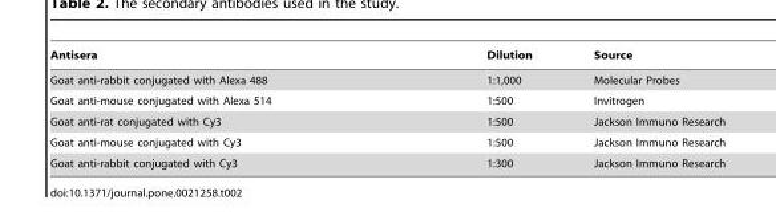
<table><thead><tr><td>Antisera</td><td>Dilution</td><td>Source</td></tr></thead><tbody><tr><td>Goat anti-rabbit conjugated with Alexa 488</td><td>1:1,000</td><td>Molecular Probes</td></tr><tr><td>Goat anti-mouse conjugated with Alexa 514</td><td>1:500</td><td>Invitrogen</td></tr><tr><td>Goat anti-rat conjugated with Cy3</td><td>1:500</td><td>Jackson Immuno Research</td></tr><tr><td>Goat anti-mouse conjugated with Cy3</td><td>1:500</td><td>Jackson Immuno Research</td></tr><tr><td>Goat anti-rabbit conjugated with Cy3</td><td>1:300</td><td>Jackson Immuno Research</td></tr></tbody></table>